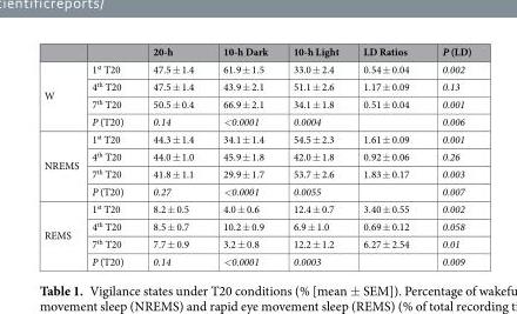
<table><thead><tr><td></td><td></td><td>20-h</td><td>10-h Dark</td><td>10-h Light</td><td>LD Ratios</td><td>P (LD)</td></tr></thead><tbody><tr><td rowspan="4">W</td><td>1<sup>st</sup> T20</td><td>47.5 ± 1.4</td><td>61.9 ± 1.5</td><td>33.0 ± 2.4</td><td>0.54 ± 0.04</td><td>0.002</td></tr><tr><td>4<sup>th</sup> T20</td><td>47.5 ± 1.4</td><td>43.9 ± 2.1</td><td>51.1 ± 2.6</td><td>1.17 ± 0.09</td><td>0.13</td></tr><tr><td>7<sup>th</sup> T20</td><td>50.5 ± 0.4</td><td>66.9 ± 2.1</td><td>34.1 ± 1.8</td><td>0.51 ± 0.04</td><td>0.001</td></tr><tr><td>P (T20)</td><td>0.14</td><td>&lt;0.0001</td><td>0.0004</td><td></td><td>0.006</td></tr><tr><td rowspan="4">NREMS</td><td>1<sup>st</sup> T20</td><td>44.3 ± 1.4</td><td>34.1 ± 1.4</td><td>54.5 ± 2.3</td><td>1.61 ± 0.09</td><td>0.001</td></tr><tr><td>4<sup>th</sup> T20</td><td>44.0 ± 1.0</td><td>45.9 ± 1.8</td><td>42.0 ± 1.8</td><td>0.92 ± 0.06</td><td>0.26</td></tr><tr><td>7<sup>th</sup> T20</td><td>41.8 ± 1.1</td><td>29.9 ± 1.7</td><td>53.7 ± 2.6</td><td>1.83 ± 0.17</td><td>0.003</td></tr><tr><td>P (T20)</td><td>0.27</td><td>&lt;0.0001</td><td>0.0055</td><td></td><td>0.007</td></tr><tr><td rowspan="4">REMS</td><td>1<sup>st</sup> T20</td><td>8.2 ± 0.5</td><td>4.0 ± 0.6</td><td>12.4 ± 0.7</td><td>3.40 ± 0.55</td><td>0.002</td></tr><tr><td>4<sup>th</sup> T20</td><td>8.5 ± 0.7</td><td>10.2 ± 0.9</td><td>6.9 ± 1.0</td><td>0.69 ± 0.12</td><td>0.058</td></tr><tr><td>7<sup>th</sup> T20</td><td>7.7 ± 0.9</td><td>3.2 ± 0.8</td><td>12.2 ± 1.2</td><td>6.27 ± 2.54</td><td>0.01</td></tr><tr><td>P (T20)</td><td>0.14</td><td>&lt;0.0001</td><td>0.0003</td><td></td><td>0.009</td></tr></tbody></table>